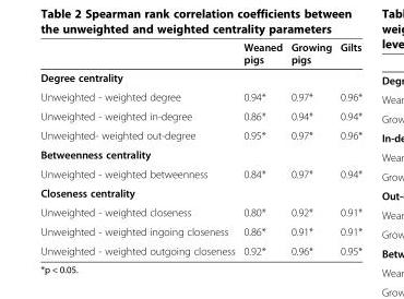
<table><thead><tr><td></td><td>Weaned pigs</td><td>Growing pigs</td><td>Gilts</td></tr></thead><tbody><tr><td colspan="4">Degree centrality</td></tr><tr><td>Unweighted - weighted degree</td><td>0.94*</td><td>0.97*</td><td>0.96*</td></tr><tr><td>Unweighted - weighted in-degree</td><td>0.86*</td><td>0.94*</td><td>0.94*</td></tr><tr><td>Unweighted- weighted out-degree</td><td>0.95*</td><td>0.97*</td><td>0.96*</td></tr><tr><td colspan="4">Betweenness centrality</td></tr><tr><td>Unweighted - weighted betweenness</td><td>0.84*</td><td>0.97*</td><td>0.94*</td></tr><tr><td colspan="4">Closeness centrality</td></tr><tr><td>Unweighted - weighted closeness</td><td>0.80*</td><td>0.92*</td><td>0.91*</td></tr><tr><td>Unweighted - weighted ingoing closeness</td><td>0.86*</td><td>0.91*</td><td>0.91*</td></tr><tr><td>Unweighted - weighted outgoing closeness</td><td>0.92*</td><td>0.96*</td><td>0.95*</td></tr></tbody></table>